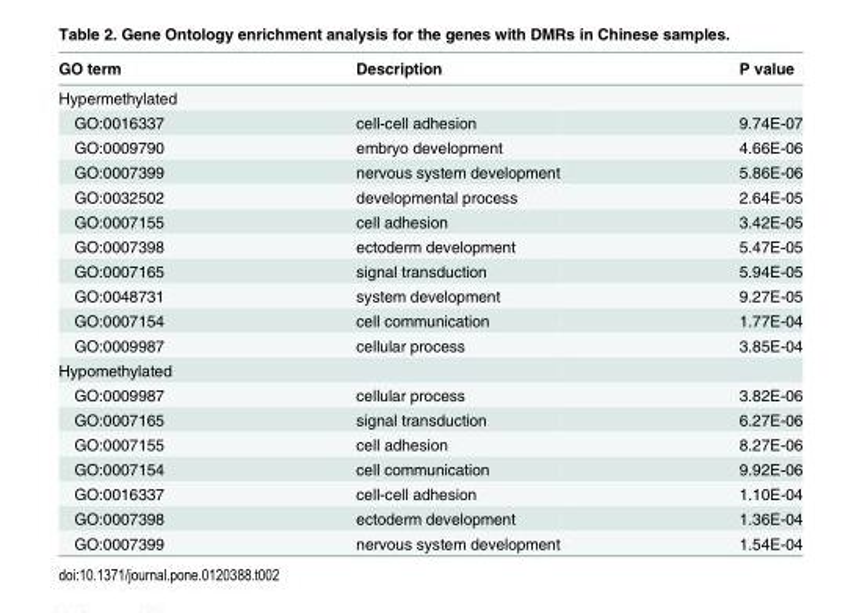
<table><thead><tr><td>GO term</td><td>Description</td><td>P value</td></tr></thead><tbody><tr><td colspan="3">Hypermethylated</td></tr><tr><td>GO:0016337</td><td>cell-cell adhesion</td><td>9.74E-07</td></tr><tr><td>GO:0009790</td><td>embryo development</td><td>4.66E-06</td></tr><tr><td>GO:0007399</td><td>nervous system development</td><td>5.86E-06</td></tr><tr><td>GO:0032502</td><td>developmental process</td><td>2.64E-05</td></tr><tr><td>GO:0007155</td><td>cell adhesion</td><td>3.42E-05</td></tr><tr><td>GO:0007398</td><td>ectoderm development</td><td>5.47E-05</td></tr><tr><td>GO:0007165</td><td>signal transduction</td><td>5.94E-05</td></tr><tr><td>GO:0048731</td><td>system development</td><td>9.27E-05</td></tr><tr><td>GO:0007154</td><td>cell communication</td><td>1.77E-04</td></tr><tr><td>GO:0009987</td><td>cellular process</td><td>3.85E-04</td></tr><tr><td colspan="3">Hypomethylated</td></tr><tr><td>GO:0009987</td><td>cellular process</td><td>3.82E-06</td></tr><tr><td>GO:0007165</td><td>signal transduction</td><td>6.27E-06</td></tr><tr><td>GO:0007155</td><td>cell adhesion</td><td>8.27E-06</td></tr><tr><td>GO:0007154</td><td>cell communication</td><td>9.92E-06</td></tr><tr><td>GO:0016337</td><td>cell-cell adhesion</td><td>1.10E-04</td></tr><tr><td>GO:0007398</td><td>ectoderm development</td><td>1.36E-04</td></tr><tr><td>GO:0007399</td><td>nervous system development</td><td>1.54E-04</td></tr></tbody></table>